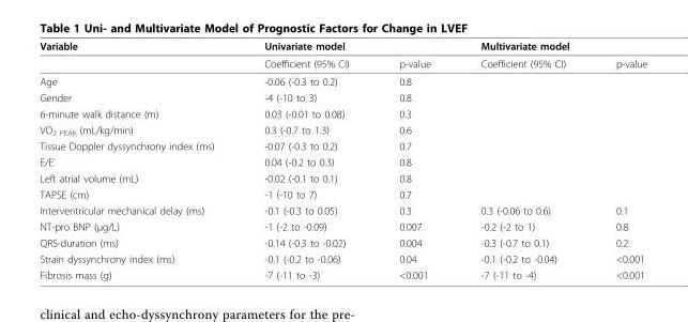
<table><thead><tr><td rowspan="2">Variable</td><td colspan="2">Univariate model</td><td colspan="2">Multivariate model</td></tr><tr><td>Coefficient (95% CI)</td><td>p-value</td><td>Coefficient (95% CI)</td><td>p-value</td></tr></thead><tbody><tr><td>Age</td><td>-0.06 (-0.3 to 0.2)</td><td>0.8</td><td></td><td></td></tr><tr><td>Gender</td><td>-4 (-10 to 3)</td><td>0.8</td><td></td><td></td></tr><tr><td>6-minute walk distance (m)</td><td>0.03 (-0.01 to 0.08)</td><td>0.3</td><td></td><td></td></tr><tr><td>VO<sub>2 PEAK</sub> (mL/kg/min)</td><td>0.3 (-0.7 to 1.3)</td><td>0.6</td><td></td><td></td></tr><tr><td>Tissue Doppler dyssynchrony index (ms)</td><td>-0.07 (-0.3 to 0.2)</td><td>0.7</td><td></td><td></td></tr><tr><td>E/E’</td><td>0.04 (-0.2 to 0.3)</td><td>0.8</td><td></td><td></td></tr><tr><td>Left atrial volume (mL)</td><td>-0.02 (-0.1 to 0.1)</td><td>0.8</td><td></td><td></td></tr><tr><td>TAPSE (cm)</td><td>-1 (-10 to 7)</td><td>0.7</td><td></td><td></td></tr><tr><td>Interventricular mechanical delay (ms)</td><td>-0.1 (-0.3 to 0.05)</td><td>0.3</td><td>0.3 (-0.06 to 0.6)</td><td>0.1</td></tr><tr><td>NT-pro BNP (μg/L)</td><td>-1 (-2 to -0.09)</td><td>0.007</td><td>-0.2 (-2 to 1)</td><td>0.8</td></tr><tr><td>QRS-duration (ms)</td><td>-0.14 (-0.3 to -0.02)</td><td>0.004</td><td>-0.3 (-0.7 to 0.1)</td><td>0.2</td></tr><tr><td>Strain dyssynchrony index (ms)</td><td>-0.1 (-0.2 to -0.06)</td><td>0.04</td><td>-0.1 (-0.2 to -0.04)</td><td>&lt;0.001</td></tr><tr><td>Fibrosis mass (g)</td><td>-7 (-11 to -3)</td><td>&lt;0.001</td><td>-7 (-11 to -4)</td><td>&lt;0.001</td></tr></tbody></table>